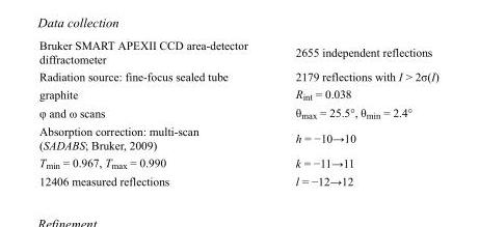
<table><tbody><tr><td>Bruker SMART APEXII CCD area-detector diffractometer</td><td>2655 independent reflections</td></tr><tr><td>Radiation source: fine-focus sealed tube</td><td>2179 reflections with I &gt; 2σ(I)</td></tr><tr><td>graphite</td><td>R<sub>int</sub> = 0.038</td></tr><tr><td>φ and ω scans</td><td>θ<sub>max</sub> = 25.5°, θ<sub>min</sub> = 2.4°</td></tr><tr><td>Absorption correction: multi-scan (SADABS; Bruker, 2009)</td><td>h = −10→10</td></tr><tr><td>T<sub>min</sub> = 0.967, T<sub>max</sub> = 0.990</td><td>k = −11→11</td></tr><tr><td>12406 measured reflections</td><td>l = −12→12</td></tr></tbody></table>